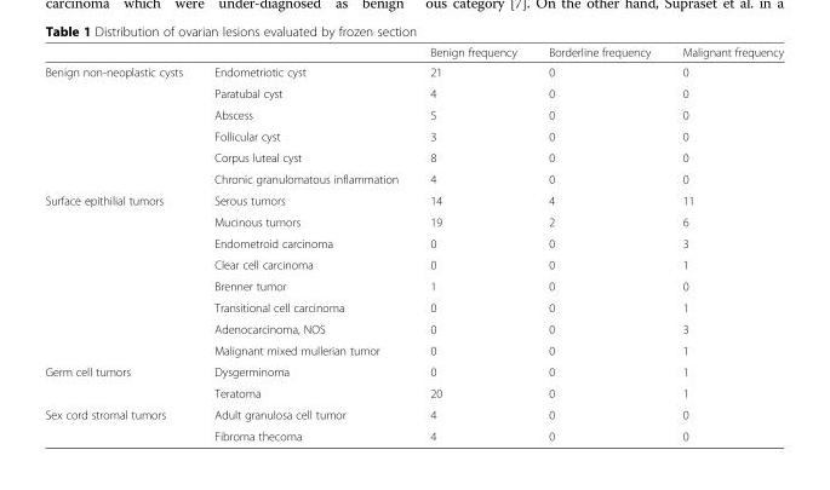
<table><thead><tr><td></td><td></td><td>Benign frequency</td><td>Borderline frequency</td><td>Malignant frequency</td></tr></thead><tbody><tr><td rowspan="6">Benign non-neoplastic cysts</td><td>Endometriotic cyst</td><td>21</td><td>0</td><td>0</td></tr><tr><td>Paratubal cyst</td><td>4</td><td>0</td><td>0</td></tr><tr><td>Abscess</td><td>5</td><td>0</td><td>0</td></tr><tr><td>Follicular cyst</td><td>3</td><td>0</td><td>0</td></tr><tr><td>Corpus luteal cyst</td><td>8</td><td>0</td><td>0</td></tr><tr><td>Chronic granulomatous inflammation</td><td>4</td><td>0</td><td>0</td></tr><tr><td rowspan="8">Surface epithilial tumors</td><td>Serous tumors</td><td>14</td><td>4</td><td>11</td></tr><tr><td>Mucinous tumors</td><td>19</td><td>2</td><td>6</td></tr><tr><td>Endometroid carcinoma</td><td>0</td><td>0</td><td>3</td></tr><tr><td>Clear cell carcinoma</td><td>0</td><td>0</td><td>1</td></tr><tr><td>Brenner tumor</td><td>1</td><td>0</td><td>0</td></tr><tr><td>Transitional cell carcinoma</td><td>0</td><td>0</td><td>1</td></tr><tr><td>Adenocarcinoma, NOS</td><td>0</td><td>0</td><td>3</td></tr><tr><td>Malignant mixed mullerian tumor</td><td>0</td><td>0</td><td>1</td></tr><tr><td rowspan="2">Germ cell tumors</td><td>Dysgerminoma</td><td>0</td><td>0</td><td>1</td></tr><tr><td>Teratoma</td><td>20</td><td>0</td><td>1</td></tr><tr><td rowspan="2">Sex cord stromal tumors</td><td>Adult granulosa cell tumor</td><td>4</td><td>0</td><td>0</td></tr><tr><td>Fibroma thecoma</td><td>4</td><td>0</td><td>0</td></tr></tbody></table>